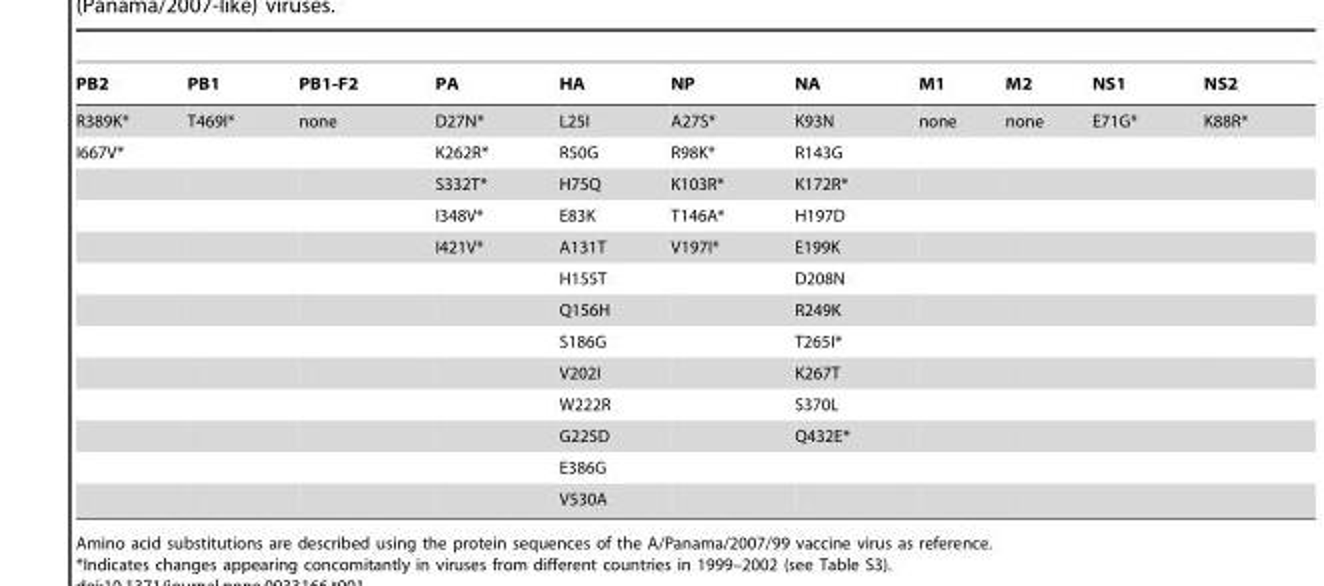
<table><thead><tr><td>PB2</td><td>PB1</td><td>PB1-F2</td><td>PA</td><td>HA</td><td>NP</td><td>NA</td><td>M1</td><td>M2</td><td>NS1</td><td>NS2</td></tr></thead><tbody><tr><td>R389K*</td><td>T469I*</td><td>none</td><td>D27N*</td><td>L25I</td><td>A27S*</td><td>K93N</td><td>none</td><td>none</td><td>E71G*</td><td>K88R*</td></tr><tr><td rowspan="12">I667V*</td><td></td><td></td><td>K262R*</td><td>R50G</td><td>R98K*</td><td>R143G</td><td></td><td></td><td></td><td></td></tr><tr><td></td><td></td><td>S332T*</td><td>H75Q</td><td>K103R*</td><td>K172R*</td><td></td><td></td><td></td><td></td></tr><tr><td></td><td></td><td>I348V*</td><td>E83K</td><td>T146A*</td><td>H197D</td><td></td><td></td><td></td><td></td></tr><tr><td></td><td></td><td>I421V*</td><td>A131T</td><td>V197I*</td><td>E199K</td><td></td><td></td><td></td><td></td></tr><tr><td></td><td></td><td></td><td>H155T</td><td></td><td>D208N</td><td></td><td></td><td></td><td></td></tr><tr><td></td><td></td><td></td><td>Q156H</td><td></td><td>R249K</td><td></td><td></td><td></td><td></td></tr><tr><td></td><td></td><td></td><td>S186G</td><td></td><td>T265I*</td><td></td><td></td><td></td><td></td></tr><tr><td></td><td></td><td></td><td>V202I</td><td></td><td>K267T</td><td></td><td></td><td></td><td></td></tr><tr><td></td><td></td><td></td><td>W222R</td><td></td><td>S370L</td><td></td><td></td><td></td><td></td></tr><tr><td></td><td></td><td></td><td>G225D</td><td></td><td>Q432E*</td><td></td><td></td><td></td><td></td></tr><tr><td></td><td></td><td></td><td>E386G</td><td></td><td></td><td></td><td></td><td></td><td></td></tr><tr><td></td><td></td><td></td><td>V530A</td><td></td><td></td><td></td><td></td><td></td><td></td></tr></tbody></table>